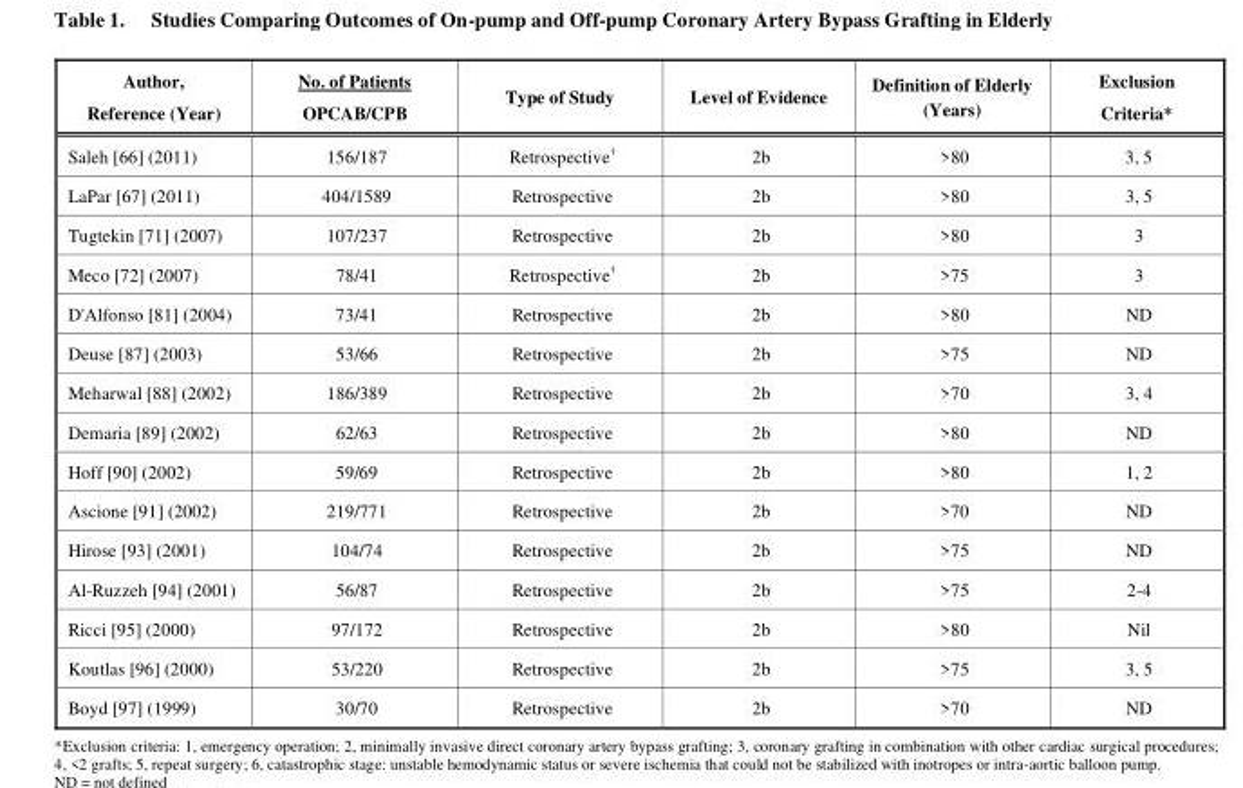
<table><thead><tr><td>Author, Reference (Year)</td><td>No. of Patients OPCAB/CPB</td><td>Type of Study</td><td>Level of Evidence</td><td>Definition of Elderly (Years)</td><td>Exclusion Criteria*</td></tr></thead><tbody><tr><td>Saleh [66] (2011)</td><td>156/187</td><td>Retrospective†</td><td>2b</td><td>&gt;80</td><td>3, 5</td></tr><tr><td>LaPar [67] (2011)</td><td>404/1589</td><td>Retrospective</td><td>2b</td><td>&gt;80</td><td>3, 5</td></tr><tr><td>Tugtekin [71] (2007)</td><td>107/237</td><td>Retrospective</td><td>2b</td><td>&gt;80</td><td>3</td></tr><tr><td>Meco [72] (2007)</td><td>78/41</td><td>Retrospective†</td><td>2b</td><td>&gt;75</td><td>3</td></tr><tr><td>D&#x27;Alfonso [81] (2004)</td><td>73/41</td><td>Retrospective</td><td>2b</td><td>&gt;80</td><td>ND</td></tr><tr><td>Deuse [87] (2003)</td><td>53/66</td><td>Retrospective</td><td>2b</td><td>&gt;75</td><td>ND</td></tr><tr><td>Meharwal [88] (2002)</td><td>186/389</td><td>Retrospective</td><td>2b</td><td>&gt;70</td><td>3, 4</td></tr><tr><td>Demaria [89] (2002)</td><td>62/63</td><td>Retrospective</td><td>2b</td><td>&gt;80</td><td>ND</td></tr><tr><td>Hoff [90] (2002)</td><td>59/69</td><td>Retrospective</td><td>2b</td><td>&gt;80</td><td>1, 2</td></tr><tr><td>Ascione [91] (2002)</td><td>219/771</td><td>Retrospective</td><td>2b</td><td>&gt;70</td><td>ND</td></tr><tr><td>Hirose [93] (2001)</td><td>104/74</td><td>Retrospective</td><td>2b</td><td>&gt;75</td><td>ND</td></tr><tr><td>Al-Ruzzeh [94] (2001)</td><td>56/87</td><td>Retrospective</td><td>2b</td><td>&gt;75</td><td>2-4</td></tr><tr><td>Ricci [95] (2000)</td><td>97/172</td><td>Retrospective</td><td>2b</td><td>&gt;80</td><td>Nil</td></tr><tr><td>Koutlas [96] (2000)</td><td>53/220</td><td>Retrospective</td><td>2b</td><td>&gt;75</td><td>3, 5</td></tr><tr><td>Boyd [97] (1999)</td><td>30/70</td><td>Retrospective</td><td>2b</td><td>&gt;70</td><td>ND</td></tr></tbody></table>